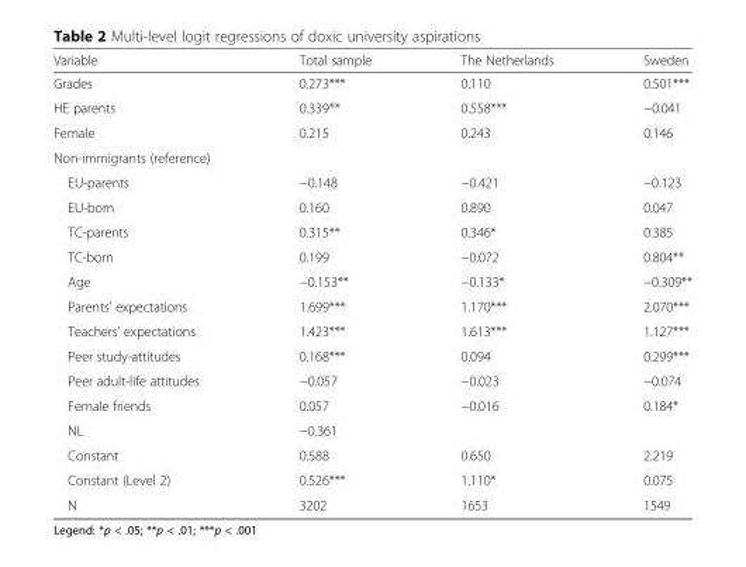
<table><thead><tr><td>Variable</td><td>Total sample</td><td>The Netherlands</td><td>Sweden</td></tr></thead><tbody><tr><td>Grades</td><td>0.273***</td><td>0.110</td><td>0.501***</td></tr><tr><td>HE parents</td><td>0.339**</td><td>0.558***</td><td>−0.041</td></tr><tr><td>Female</td><td>0.215</td><td>0.243</td><td>0.146</td></tr><tr><td colspan="4">Non-immigrants (reference)</td></tr><tr><td>EU-parents</td><td>−0.148</td><td>−0.421</td><td>−0.123</td></tr><tr><td>EU-born</td><td>0.160</td><td>0.890</td><td>0.047</td></tr><tr><td>TC-parents</td><td>0.315**</td><td>0.346*</td><td>0.385</td></tr><tr><td>TC-born</td><td>0.199</td><td>−0.072</td><td>0.804**</td></tr><tr><td>Age</td><td>−0.153**</td><td>−0.133*</td><td>−0.309**</td></tr><tr><td>Parents’ expectations</td><td>1.699***</td><td>1.170***</td><td>2.070***</td></tr><tr><td>Teachers’ expectations</td><td>1.423***</td><td>1.613***</td><td>1.127***</td></tr><tr><td>Peer study-attitudes</td><td>0.168***</td><td>0.094</td><td>0.299***</td></tr><tr><td>Peer adult-life attitudes</td><td>−0.057</td><td>−0.023</td><td>−0.074</td></tr><tr><td>Female friends</td><td>0.057</td><td>−0.016</td><td>0.184*</td></tr><tr><td>NL</td><td>−0.361</td><td></td><td></td></tr><tr><td>Constant</td><td>0.588</td><td>0.650</td><td>2.219</td></tr><tr><td>Constant (Level 2)</td><td>0.526***</td><td>1.110*</td><td>0.075</td></tr><tr><td>N</td><td>3202</td><td>1653</td><td>1549</td></tr></tbody></table>